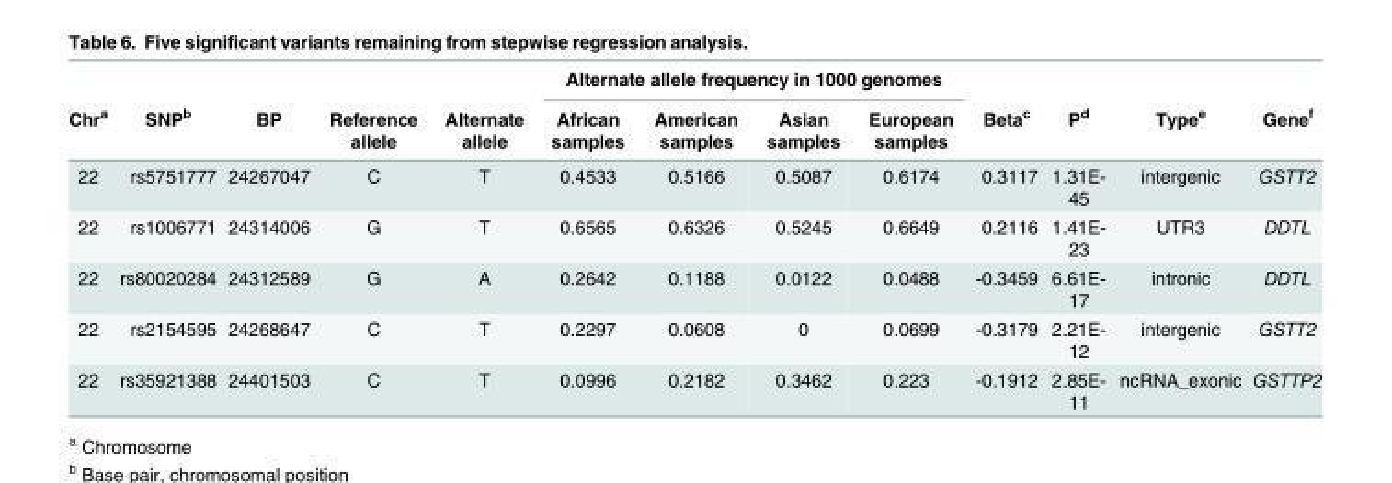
<table><thead><tr><td rowspan="2">Chr<sup>a</sup></td><td rowspan="2">SNP<sup>b</sup></td><td rowspan="2">BP</td><td rowspan="2">Reference allele</td><td rowspan="2">Alternate allele</td><td colspan="4">Alternate allele frequency in 1000 genomes</td><td rowspan="2">Beta<sup>c</sup></td><td rowspan="2">P<sup>d</sup></td><td rowspan="2">Type<sup>e</sup></td><td rowspan="2">Gene<sup>f</sup></td></tr><tr><td>African samples</td><td>American samples</td><td>Asian samples</td><td>European samples</td></tr></thead><tbody><tr><td>22</td><td>rs5751777</td><td>24267047</td><td>C</td><td>T</td><td>0.4533</td><td>0.5166</td><td>0.5087</td><td>0.6174</td><td>0.3117</td><td>1.31E- 45</td><td>intergenic</td><td>GSTT2</td></tr><tr><td>22</td><td>rs1006771</td><td>24314006</td><td>G</td><td>T</td><td>0.6565</td><td>0.6326</td><td>0.5245</td><td>0.6649</td><td>0.2116</td><td>1.41E- 23</td><td>UTR3</td><td>DDTL</td></tr><tr><td>22</td><td>rs80020284</td><td>24312589</td><td>G</td><td>A</td><td>0.2642</td><td>0.1188</td><td>0.0122</td><td>0.0488</td><td>-0.3459</td><td>6.61E- 17</td><td>intronic</td><td>DDTL</td></tr><tr><td>22</td><td>rs2154595</td><td>24268647</td><td>C</td><td>T</td><td>0.2297</td><td>0.0608</td><td>0</td><td>0.0699</td><td>-0.3179</td><td>2.21E- 12</td><td>intergenic</td><td>GSTT2</td></tr><tr><td>22</td><td>rs35921388</td><td>24401503</td><td>C</td><td>T</td><td>0.0996</td><td>0.2182</td><td>0.3462</td><td>0.223</td><td>-0.1912</td><td>2.85E- 11</td><td>ncRNA_exonic</td><td>GSTTP2</td></tr></tbody></table>